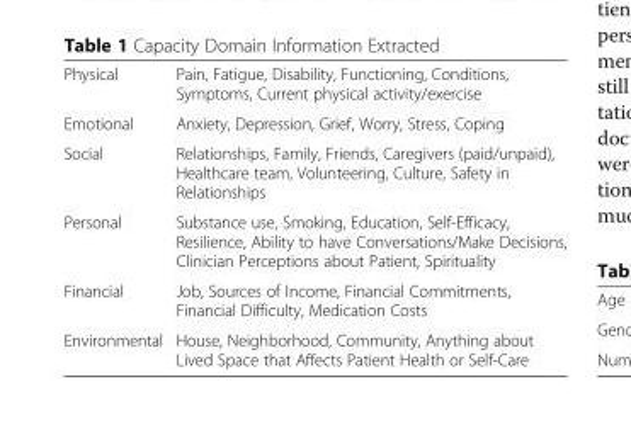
<table><tbody><tr><td>Physical</td><td>Pain, Fatigue, Disability, Functioning, Conditions, Symptoms, Current physical activity/exercise</td></tr><tr><td>Emotional</td><td>Anxiety, Depression, Grief, Worry, Stress, Coping</td></tr><tr><td>Social</td><td>Relationships, Family, Friends, Caregivers (paid/unpaid), Healthcare team, Volunteering, Culture, Safety in Relationships</td></tr><tr><td>Personal</td><td>Substance use, Smoking, Education, Self-Efficacy, Resilience, Ability to have Conversations/Make Decisions, Clinician Perceptions about Patient, Spirituality</td></tr><tr><td>Financial</td><td>Job, Sources of Income, Financial Commitments, Financial Difficulty, Medication Costs</td></tr><tr><td>Environmental</td><td>House, Neighborhood, Community, Anything about Lived Space that Affects Patient Health or Self-Care</td></tr></tbody></table>